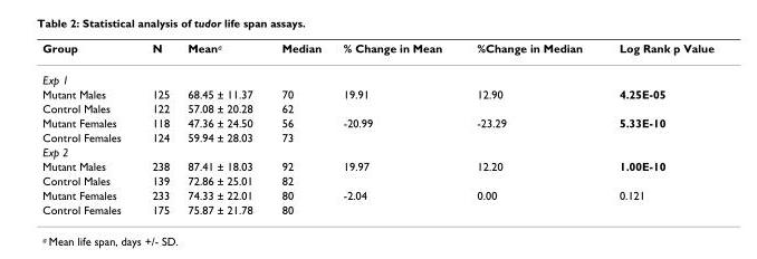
<table><thead><tr><td>Group</td><td>N</td><td>Mean<sup>a</sup></td><td>Median</td><td>% Change in Mean</td><td>%Change in Median</td><td>Log Rank p Value</td></tr></thead><tbody><tr><td colspan="7">Exp 1</td></tr><tr><td>Mutant Males</td><td>125</td><td>68.45 ± 11.37</td><td>70</td><td>19.91</td><td>12.90</td><td>4.25E-05</td></tr><tr><td>Control Males</td><td>122</td><td>57.08 ± 20.28</td><td>62</td><td></td><td></td><td></td></tr><tr><td>Mutant Females</td><td>118</td><td>47.36 ± 24.50</td><td>56</td><td>-20.99</td><td>-23.29</td><td>5.33E-10</td></tr><tr><td>Control Females</td><td>124</td><td>59.94 ± 28.03</td><td>73</td><td></td><td></td><td></td></tr><tr><td colspan="7">Exp 2</td></tr><tr><td>Mutant Males</td><td>238</td><td>87.41 ± 18.03</td><td>92</td><td>19.97</td><td>12.20</td><td>1.00E-10</td></tr><tr><td>Control Males</td><td>139</td><td>72.86 ± 25.01</td><td>82</td><td></td><td></td><td></td></tr><tr><td>Mutant Females</td><td>233</td><td>74.33 ± 22.01</td><td>80</td><td>-2.04</td><td>0.00</td><td>0.121</td></tr><tr><td>Control Females</td><td>175</td><td>75.87 ± 21.78</td><td>80</td><td></td><td></td><td></td></tr></tbody></table>